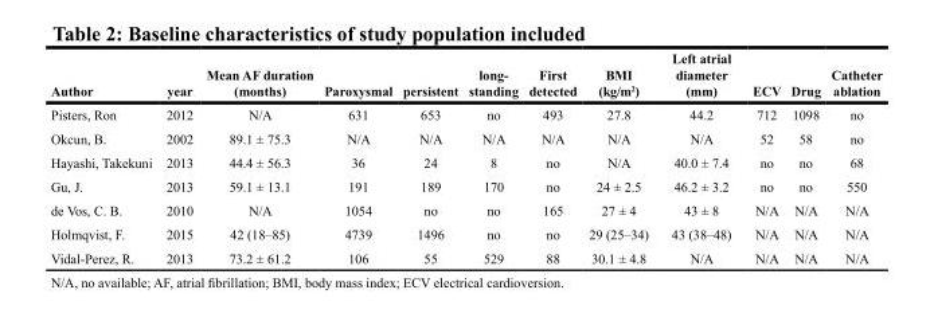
<table><thead><tr><td>Author</td><td>year</td><td>Mean AF duration (months)</td><td>Paroxysmal</td><td>persistent</td><td>long- standing</td><td>First detected</td><td>BMI (kg/m<sup>2</sup>)</td><td>Left atrial diameter (mm)</td><td>ECV</td><td>Drug</td><td>Catheter ablation</td></tr></thead><tbody><tr><td>Pisters, Ron</td><td>2012</td><td>N/A</td><td>631</td><td>653</td><td>no</td><td>493</td><td>27.8</td><td>44.2</td><td>712</td><td>1098</td><td>no</td></tr><tr><td>Okcun, B.</td><td>2002</td><td>89.1 ± 75.3</td><td>N/A</td><td>N/A</td><td>N/A</td><td>N/A</td><td>N/A</td><td>N/A</td><td>52</td><td>58</td><td>no</td></tr><tr><td>Hayashi, Takekuni</td><td>2013</td><td>44.4 ± 56.3</td><td>36</td><td>24</td><td>8</td><td>no</td><td>N/A</td><td>40.0 ± 7.4</td><td>no</td><td>no</td><td>68</td></tr><tr><td>Gu, J.</td><td>2013</td><td>59.1 ± 13.1</td><td>191</td><td>189</td><td>170</td><td>no</td><td>24 ± 2.5</td><td>46.2 ± 3.2</td><td>no</td><td>no</td><td>550</td></tr><tr><td>de Vos, C. B.</td><td>2010</td><td>N/A</td><td>1054</td><td>no</td><td>no</td><td>165</td><td>27 ± 4</td><td>43 ± 8</td><td>N/A</td><td>N/A</td><td>N/A</td></tr><tr><td>Holmqvist, F.</td><td>2015</td><td>42 (18–85)</td><td>4739</td><td>1496</td><td>no</td><td>no</td><td>29 (25–34)</td><td>43 (38–48)</td><td>N/A</td><td>N/A</td><td>N/A</td></tr><tr><td>Vidal-Perez, R.</td><td>2013</td><td>73.2 ± 61.2</td><td>106</td><td>55</td><td>529</td><td>88</td><td>30.1 ± 4.8</td><td>N/A</td><td>N/A</td><td>N/A</td><td>N/A</td></tr></tbody></table>